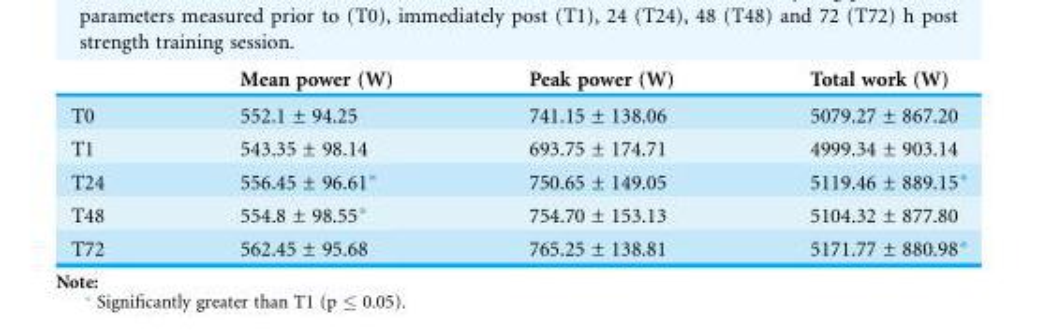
<table><thead><tr><td></td><td>Mean power (W)</td><td>Peak power (W)</td><td>Total work (W)</td></tr></thead><tbody><tr><td>T0</td><td>552.1 ± 94.25</td><td>741.15 ± 138.06</td><td>5079.27 ± 867.20</td></tr><tr><td>T1</td><td>543.35 ± 98.14</td><td>693.75 ± 174.71</td><td>4999.34 ± 903.14</td></tr><tr><td>T24</td><td>556.45 ± 96.61*</td><td>750.65 ± 149.05</td><td>5119.46 ± 889.15*</td></tr><tr><td>T48</td><td>554.8 ± 98.55*</td><td>754.70 ± 153.13</td><td>5104.32 ± 877.80</td></tr><tr><td>T72</td><td>562.45 ± 95.68</td><td>765.25 ± 138.81</td><td>5171.77 ± 880.98*</td></tr></tbody></table>